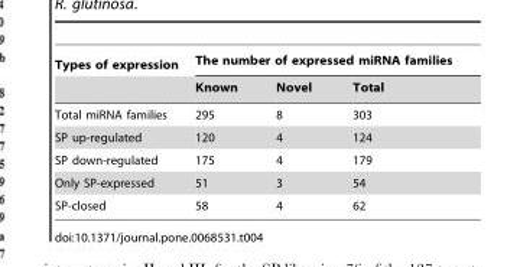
<table><thead><tr><td rowspan="2">Types of expression</td><td colspan="3">The number of expressed miRNA families</td></tr><tr><td>Known</td><td>Novel</td><td>Total</td></tr></thead><tbody><tr><td>Total miRNA families</td><td>295</td><td>8</td><td>303</td></tr><tr><td>SP up-regulated</td><td>120</td><td>4</td><td>124</td></tr><tr><td>SP down-regulated</td><td>175</td><td>4</td><td>179</td></tr><tr><td>Only SP-expressed</td><td>51</td><td>3</td><td>54</td></tr><tr><td>SP-closed</td><td>58</td><td>4</td><td>62</td></tr></tbody></table>